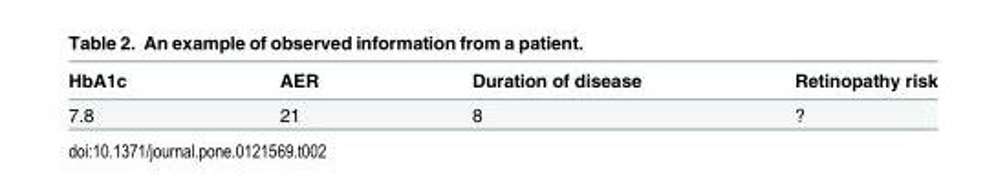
<table><thead><tr><td>HbA1c</td><td>AER</td><td>Duration of disease</td><td>Retinopathy risk</td></tr></thead><tbody><tr><td>7.8</td><td>21</td><td>8</td><td>?</td></tr></tbody></table>